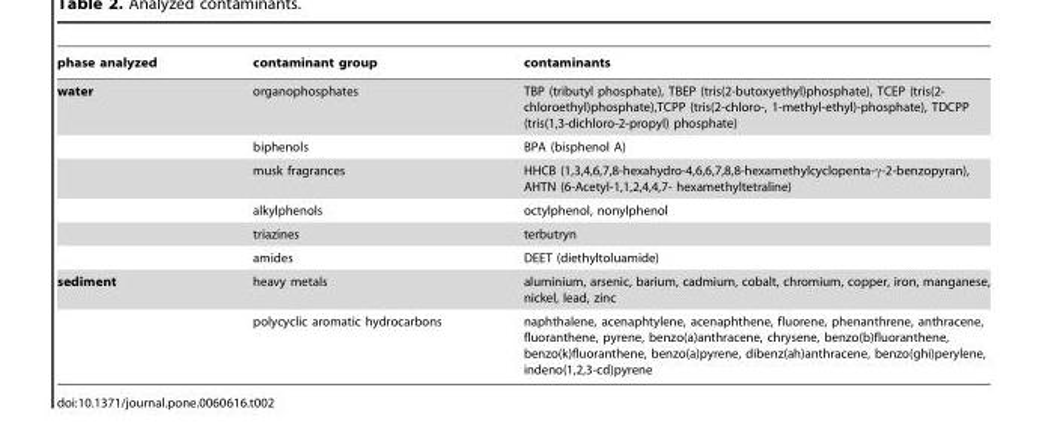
<table><thead><tr><td>phase analyzed</td><td>contaminant group</td><td>contaminants</td></tr></thead><tbody><tr><td rowspan="6">water</td><td>organophosphates</td><td>TBP (tributyl phosphate), TBEP (tris(2-butoxyethyl)phosphate), TCEP (tris(2- chloroethyl)phosphate),TCPP (tris(2-chloro-, 1-methyl-ethyl)-phosphate), TDCPP (tris(1,3-dichloro-2-propyl) phosphate)</td></tr><tr><td>biphenols</td><td>BPA (bisphenol A)</td></tr><tr><td>musk fragrances</td><td>HHCB (1,3,4,6,7,8-hexahydro-4,6,6,7,8,8-hexamethylcyclopenta-γ-2-benzopyran), AHTN (6-Acetyl-1,1,2,4,4,7- hexamethyltetraline)</td></tr><tr><td>alkylphenols</td><td>octylphenol, nonylphenol</td></tr><tr><td>triazines</td><td>terbutryn</td></tr><tr><td>amides</td><td>DEET (diethyltoluamide)</td></tr><tr><td rowspan="2">sediment</td><td>heavy metals</td><td>aluminium, arsenic, barium, cadmium, cobalt, chromium, copper, iron, manganese, nickel, lead, zinc</td></tr><tr><td>polycyclic aromatic hydrocarbons</td><td>naphthalene, acenaphtylene, acenaphthene, fluorene, phenanthrene, anthracene, fluoranthene, pyrene, benzo(a)anthracene, chrysene, benzo(b)fluoranthene, benzo(k)fluoranthene, benzo(a)pyrene, dibenz(ah)anthracene, benzo(ghi)perylene, indeno(1,2,3-cd)pyrene</td></tr></tbody></table>